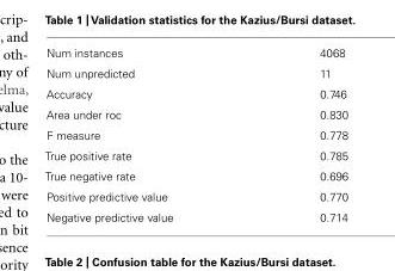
<table><tbody><tr><td>Num instances</td><td>4068</td></tr><tr><td>Num unpredicted</td><td>11</td></tr><tr><td>Accuracy</td><td>0.746</td></tr><tr><td>Area under roc</td><td>0.830</td></tr><tr><td>F measure</td><td>0.778</td></tr><tr><td>True positive rate</td><td>0.785</td></tr><tr><td>True negative rate</td><td>0.696</td></tr><tr><td>Positive predictive value</td><td>0.770</td></tr><tr><td>Negative predictive value</td><td>0.714</td></tr></tbody></table>